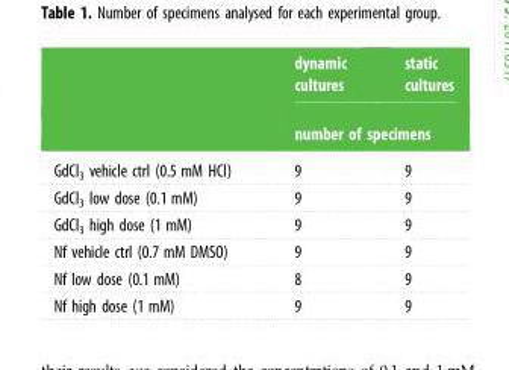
<table><thead><tr><td rowspan="2"></td><td>dynamic cultures</td><td>static cultures</td></tr><tr><td colspan="2">number of specimens</td></tr></thead><tbody><tr><td>GdCl<sub>3</sub> vehicle ctrl (0.5 mM HCl)</td><td>9</td><td>9</td></tr><tr><td>GdCl<sub>3</sub> low dose (0.1 mM)</td><td>9</td><td>9</td></tr><tr><td>GdCl<sub>3</sub> high dose (1 mM)</td><td>9</td><td>9</td></tr><tr><td>Nf vehicle ctrl (0.7 mM DMSO)</td><td>9</td><td>9</td></tr><tr><td>Nf low dose (0.1 mM)</td><td>8</td><td>9</td></tr><tr><td>Nf high dose (1 mM)</td><td>9</td><td>9</td></tr></tbody></table>